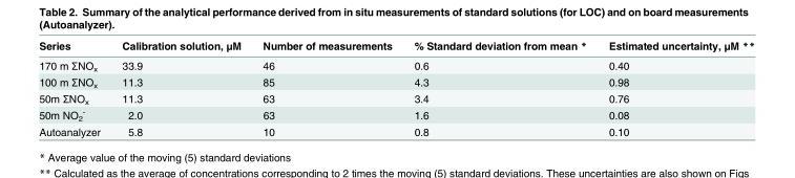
<table><thead><tr><td>Series</td><td>Calibration solution, μM</td><td>Number of measurements</td><td>% Standard deviation from mean *</td><td>Estimated uncertainty, μM **</td></tr></thead><tbody><tr><td>170 m ΣNO<sub>x</sub></td><td>33.9</td><td>46</td><td>0.6</td><td>0.40</td></tr><tr><td>100 m ΣNO<sub>x</sub></td><td>11.3</td><td>85</td><td>4.3</td><td>0.98</td></tr><tr><td>50m ΣNO<sub>x</sub></td><td>11.3</td><td>63</td><td>3.4</td><td>0.76</td></tr><tr><td>50m NO<sub>2</sub> <sup>-</sup></td><td>2.0</td><td>63</td><td>1.6</td><td>0.08</td></tr><tr><td>Autoanalyzer</td><td>5.8</td><td>10</td><td>0.8</td><td>0.10</td></tr></tbody></table>